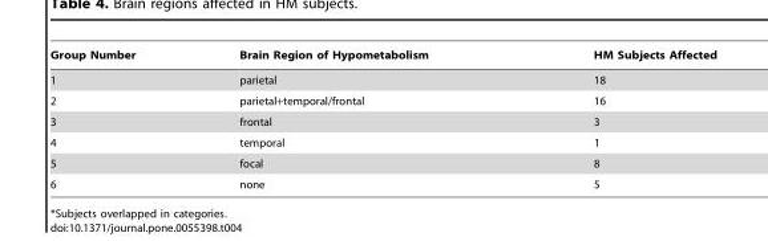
<table><thead><tr><td>Group Number</td><td>Brain Region of Hypometabolism</td><td>HM Subjects Affected</td></tr></thead><tbody><tr><td>1</td><td>parietal</td><td>18</td></tr><tr><td>2</td><td>parietal+temporal/frontal</td><td>16</td></tr><tr><td>3</td><td>frontal</td><td>3</td></tr><tr><td>4</td><td>temporal</td><td>1</td></tr><tr><td>5</td><td>focal</td><td>8</td></tr><tr><td>6</td><td>none</td><td>5</td></tr></tbody></table>